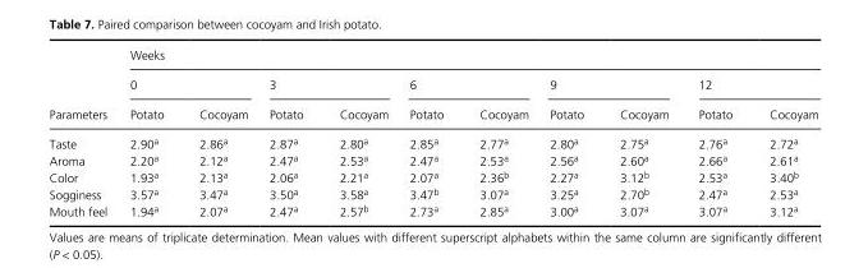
<table><thead><tr><td rowspan="3">Parameters</td><td colspan="10">Weeks</td></tr><tr><td colspan="2">0</td><td colspan="2">3</td><td colspan="2">6</td><td colspan="2">9</td><td colspan="2">12</td></tr><tr><td>Potato</td><td>Cocoyam</td><td>Potato</td><td>Cocoyam</td><td>Potato</td><td>Cocoyam</td><td>Potato</td><td>Cocoyam</td><td>Potato</td><td>Cocoyam</td></tr></thead><tbody><tr><td>Taste</td><td>2.90<sup>a</sup></td><td>2.86<sup>a</sup></td><td>2.87<sup>a</sup></td><td>2.80<sup>a</sup></td><td>2.85<sup>a</sup></td><td>2.77<sup>a</sup></td><td>2.80<sup>a</sup></td><td>2.75<sup>a</sup></td><td>2.76<sup>a</sup></td><td>2.72<sup>a</sup></td></tr><tr><td>Aroma</td><td>2.20<sup>a</sup></td><td>2.12<sup>a</sup></td><td>2.47<sup>a</sup></td><td>2.53<sup>a</sup></td><td>2.47<sup>a</sup></td><td>2.53<sup>a</sup></td><td>2.56<sup>a</sup></td><td>2.60<sup>a</sup></td><td>2.66<sup>a</sup></td><td>2.61<sup>a</sup></td></tr><tr><td>Color</td><td>1.93<sup>a</sup></td><td>2.13<sup>a</sup></td><td>2.06<sup>a</sup></td><td>2.21<sup>a</sup></td><td>2.07<sup>a</sup></td><td>2.36<sup>b</sup></td><td>2.27<sup>a</sup></td><td>3.12<sup>b</sup></td><td>2.53<sup>a</sup></td><td>3.40<sup>b</sup></td></tr><tr><td>Sogginess</td><td>3.57<sup>a</sup></td><td>3.47<sup>a</sup></td><td>3.50<sup>a</sup></td><td>3.58<sup>a</sup></td><td>3.47<sup>b</sup></td><td>3.07<sup>a</sup></td><td>3.25<sup>a</sup></td><td>2.70<sup>b</sup></td><td>2.47<sup>a</sup></td><td>2.53<sup>a</sup></td></tr><tr><td>Mouth feel</td><td>1.94<sup>a</sup></td><td>2.07<sup>a</sup></td><td>2.47<sup>a</sup></td><td>2.57<sup>b</sup></td><td>2.73<sup>a</sup></td><td>2.85<sup>a</sup></td><td>3.00<sup>a</sup></td><td>3.07<sup>a</sup></td><td>3.07<sup>a</sup></td><td>3.12<sup>a</sup></td></tr></tbody></table>